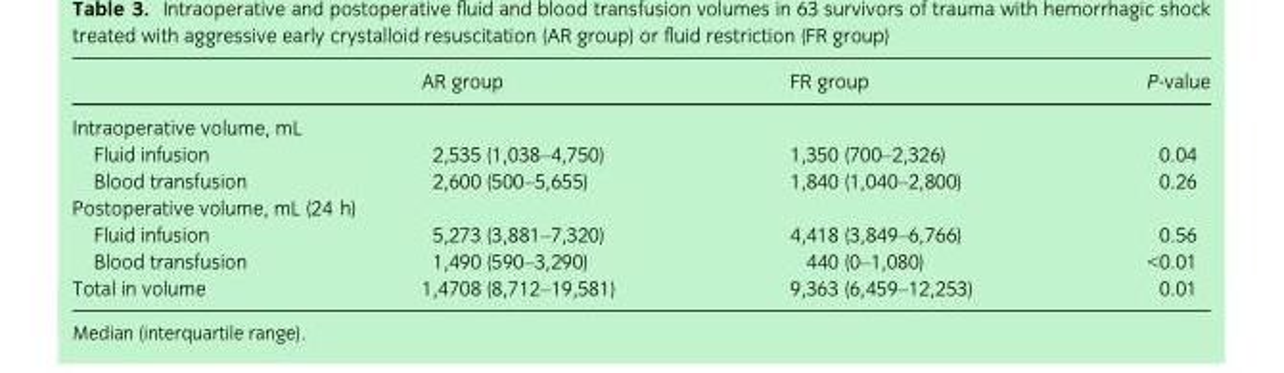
<table><thead><tr><td></td><td>AR group</td><td>FR group</td><td>P-value</td></tr></thead><tbody><tr><td colspan="4">Intraoperative volume, mL</td></tr><tr><td>Fluid infusion</td><td>2,535 (1,038–4,750)</td><td>1,350 (700–2,326)</td><td>0.04</td></tr><tr><td>Blood transfusion</td><td>2,600 (500–5,655)</td><td>1,840 (1,040–2,800)</td><td>0.26</td></tr><tr><td colspan="4">Postoperative volume, mL (24 h)</td></tr><tr><td>Fluid infusion</td><td>5,273 (3,881–7,320)</td><td>4,418 (3,849–6,766)</td><td>0.56</td></tr><tr><td>Blood transfusion</td><td>1,490 (590–3,290)</td><td>440 (0–1,080)</td><td>&lt;0.01</td></tr><tr><td>Total in volume</td><td>1,4708 (8,712–19,581)</td><td>9,363 (6,459–12,253)</td><td>0.01</td></tr></tbody></table>